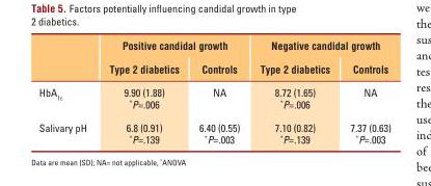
<table><thead><tr><td rowspan="2"></td><td colspan="2">Positive candidal growth</td><td colspan="2">Negative candidal growth</td></tr><tr><td>Type 2 diabetics</td><td>Controls</td><td>Type 2 diabetics</td><td>Controls</td></tr></thead><tbody><tr><td>HbA<sub>1c</sub></td><td>9.90 (1.88) *P=.006</td><td>NA</td><td>8.72 (1.65) *P=.006</td><td>NA</td></tr><tr><td>Salivary pH</td><td>6.8 (0.91) *P=.139</td><td>6.40 (0.55) *P=.003</td><td>7.10 (0.82) *P=.139</td><td>7.37 (0.63) *P=.003</td></tr></tbody></table>